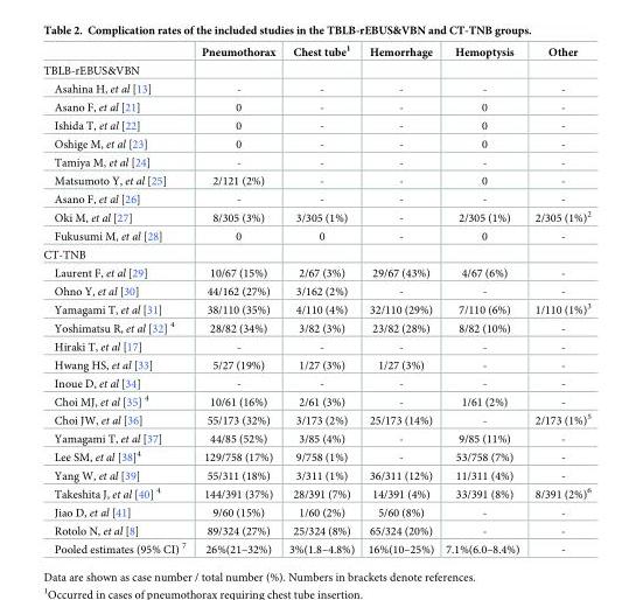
<table><thead><tr><td></td><td>Pneumothorax</td><td>Chest tube<sup>1</sup></td><td>Hemorrhage</td><td>Hemoptysis</td><td>Other</td></tr></thead><tbody><tr><td colspan="6">TBLB-rEBUS&amp;VBN</td></tr><tr><td>Asahina H, et al [13]</td><td>-</td><td>-</td><td>-</td><td>-</td><td>-</td></tr><tr><td>Asano F, et al [21]</td><td>0</td><td>-</td><td>-</td><td>0</td><td>-</td></tr><tr><td>Ishida T, et al [22]</td><td>0</td><td>-</td><td>-</td><td>0</td><td>-</td></tr><tr><td>Oshige M, et al [23]</td><td>0</td><td>-</td><td>-</td><td>0</td><td>-</td></tr><tr><td>Tamiya M, et al [24]</td><td>-</td><td>-</td><td>-</td><td>-</td><td>-</td></tr><tr><td>Matsumoto Y, et al [25]</td><td>2/121 (2%)</td><td>-</td><td>-</td><td>0</td><td>-</td></tr><tr><td>Asano F, et al [26]</td><td>-</td><td>-</td><td>-</td><td>-</td><td>-</td></tr><tr><td>Oki M, et al [27]</td><td>8/305 (3%)</td><td>3/305 (1%)</td><td>-</td><td>2/305 (1%)</td><td>2/305 (1%)<sup>2</sup></td></tr><tr><td>Fukusumi M, et al [28]</td><td>0</td><td>0</td><td>-</td><td>0</td><td>-</td></tr><tr><td colspan="6">CT-TNB</td></tr><tr><td>Laurent F, et al [29]</td><td>10/67 (15%)</td><td>2/67 (3%)</td><td>29/67 (43%)</td><td>4/67 (6%)</td><td>-</td></tr><tr><td>Ohno Y, et al [30]</td><td>44/162 (27%)</td><td>3/162 (2%)</td><td>-</td><td>-</td><td>-</td></tr><tr><td>Yamagami T, et al [31]</td><td>38/110 (35%)</td><td>4/110 (4%)</td><td>32/110 (29%)</td><td>7/110 (6%)</td><td>1/110 (1%)<sup>3</sup></td></tr><tr><td>Yoshimatsu R, et al [32] <sup>4</sup></td><td>28/82 (34%)</td><td>3/82 (3%)</td><td>23/82 (28%)</td><td>8/82 (10%)</td><td>-</td></tr><tr><td>Hiraki T, et al [17]</td><td>-</td><td>-</td><td>-</td><td>-</td><td>-</td></tr><tr><td>Hwang HS, et al [33]</td><td>5/27 (19%)</td><td>1/27 (3%)</td><td>1/27 (3%)</td><td>-</td><td>-</td></tr><tr><td>Inoue D, et al [34]</td><td>-</td><td>-</td><td>-</td><td>-</td><td>-</td></tr><tr><td>Choi MJ, et al [35] <sup>4</sup></td><td>10/61 (16%)</td><td>2/61 (3%)</td><td>-</td><td>1/61 (2%)</td><td>-</td></tr><tr><td>Choi JW, et al [36]</td><td>55/173 (32%)</td><td>3/173 (2%)</td><td>25/173 (14%)</td><td>-</td><td>2/173 (1%)<sup>5</sup></td></tr><tr><td>Yamagami T, et al [37]</td><td>44/85 (52%)</td><td>3/85 (4%)</td><td>-</td><td>9/85 (11%)</td><td>-</td></tr><tr><td>Lee SM, et al [38]<sup>4</sup></td><td>129/758 (17%)</td><td>9/758 (1%)</td><td>-</td><td>53/758 (7%)</td><td>-</td></tr><tr><td>Yang W, et al [39]</td><td>55/311 (18%)</td><td>3/311 (1%)</td><td>36/311 (12%)</td><td>11/311 (4%)</td><td>-</td></tr><tr><td>Takeshita J, et al [40] <sup>4</sup></td><td>144/391 (37%)</td><td>28/391 (7%)</td><td>14/391 (4%)</td><td>33/391 (8%)</td><td>8/391 (2%)<sup>6</sup></td></tr><tr><td>Jiao D, et al [41]</td><td>9/60 (15%)</td><td>1/60 (2%)</td><td>5/60 (8%)</td><td>-</td><td>-</td></tr><tr><td>Rotolo N, et al [8]</td><td>89/324 (27%)</td><td>25/324 (8%)</td><td>65/324 (20%)</td><td>-</td><td>-</td></tr><tr><td>Pooled estimates (95% CI) <sup>7</sup></td><td>26%(21–32%)</td><td>3%(1.8–4.8%)</td><td>16%(10–25%)</td><td>7.1%(6.0–8.4%)</td><td>-</td></tr></tbody></table>